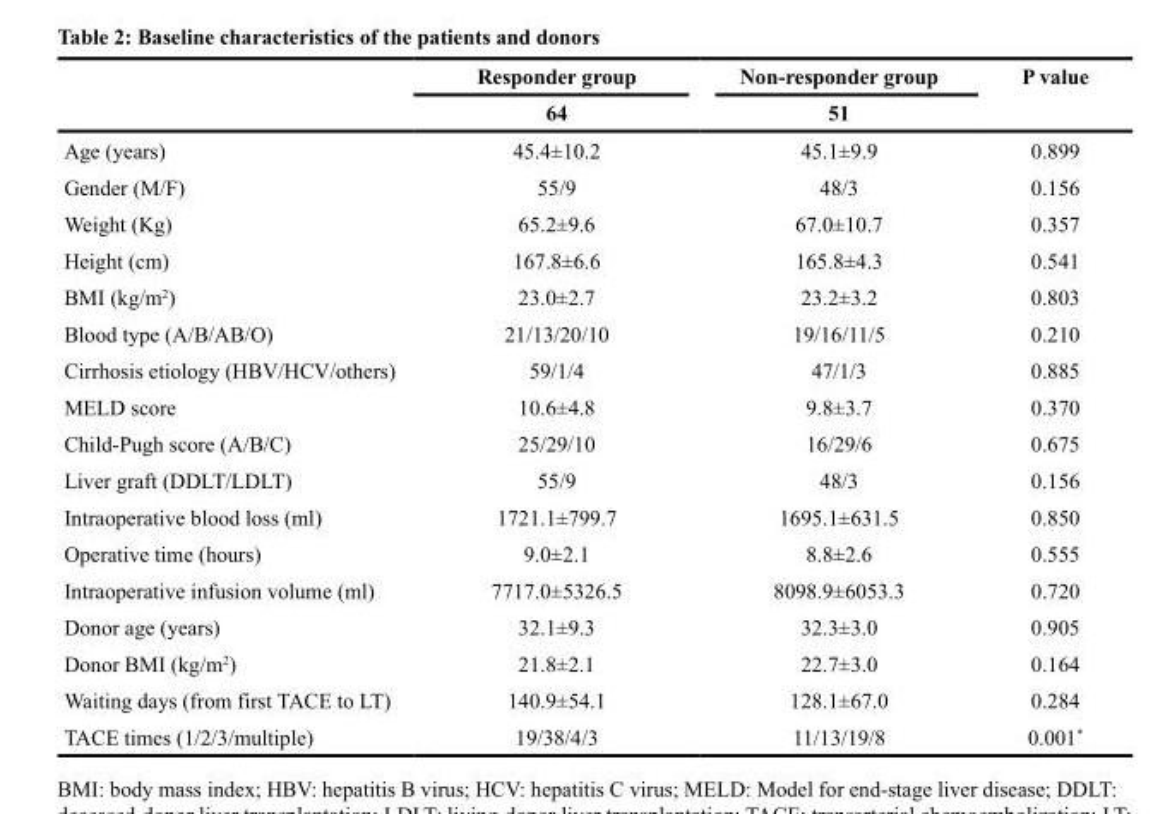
<table><thead><tr><td rowspan="2"></td><td rowspan="2">Responder group 64</td><td rowspan="2">Non-responder group 51</td><td rowspan="2">P value</td></tr><tr></tr></thead><tbody><tr><td>Age (years)</td><td>45.4±10.2</td><td>45.1±9.9</td><td>0.899</td></tr><tr><td>Gender (M/F)</td><td>55/9</td><td>48/3</td><td>0.156</td></tr><tr><td>Weight (Kg)</td><td>65.2±9.6</td><td>67.0±10.7</td><td>0.357</td></tr><tr><td>Height (cm)</td><td>167.8±6.6</td><td>165.8±4.3</td><td>0.541</td></tr><tr><td>BMI (kg/m<sup>2</sup>)</td><td>23.0±2.7</td><td>23.2±3.2</td><td>0.803</td></tr><tr><td>Blood type (A/B/AB/O)</td><td>21/13/20/10</td><td>19/16/11/5</td><td>0.210</td></tr><tr><td>Cirrhosis etiology (HBV/HCV/others)</td><td>59/1/4</td><td>47/1/3</td><td>0.885</td></tr><tr><td>MELD score</td><td>10.6±4.8</td><td>9.8±3.7</td><td>0.370</td></tr><tr><td>Child-Pugh score (A/B/C)</td><td>25/29/10</td><td>16/29/6</td><td>0.675</td></tr><tr><td>Liver graft (DDLT/LDLT)</td><td>55/9</td><td>48/3</td><td>0.156</td></tr><tr><td>Intraoperative blood loss (ml)</td><td>1721.1±799.7</td><td>1695.1±631.5</td><td>0.850</td></tr><tr><td>Operative time (hours)</td><td>9.0±2.1</td><td>8.8±2.6</td><td>0.555</td></tr><tr><td>Intraoperative infusion volume (ml)</td><td>7717.0±5326.5</td><td>8098.9±6053.3</td><td>0.720</td></tr><tr><td>Donor age (years)</td><td>32.1±9.3</td><td>32.3±3.0</td><td>0.905</td></tr><tr><td>Donor BMI (kg/m<sup>2</sup>)</td><td>21.8±2.1</td><td>22.7±3.0</td><td>0.164</td></tr><tr><td>Waiting days (from first TACE to LT)</td><td>140.9±54.1</td><td>128.1±67.0</td><td>0.284</td></tr><tr><td>TACE times (1/2/3/multiple)</td><td>19/38/4/3</td><td>11/13/19/8</td><td>0.001*</td></tr></tbody></table>